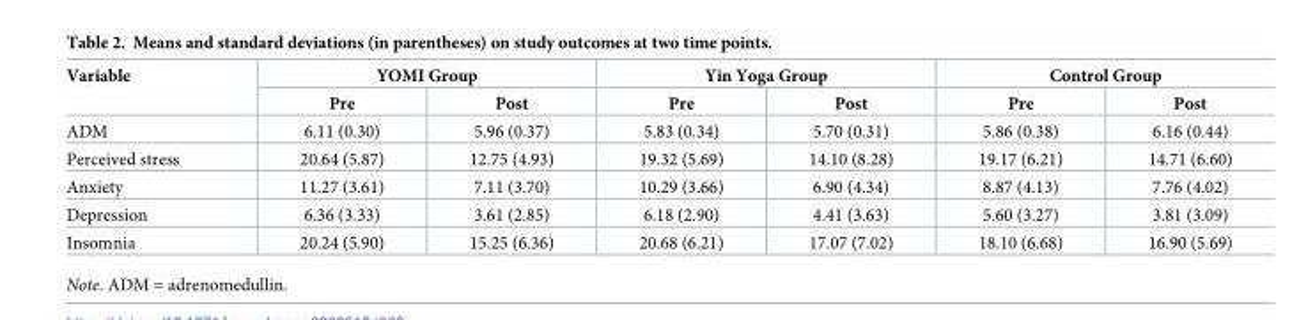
<table><thead><tr><td rowspan="2">Variable</td><td colspan="2">YOMI Group</td><td colspan="2">Yin Yoga Group</td><td colspan="2">Control Group</td></tr><tr><td>Pre</td><td>Post</td><td>Pre</td><td>Post</td><td>Pre</td><td>Post</td></tr></thead><tbody><tr><td>ADM</td><td>6.11 (0.30)</td><td>5.96 (0.37)</td><td>5.83 (0.34)</td><td>5.70 (0.31)</td><td>5.86 (0.38)</td><td>6.16 (0.44)</td></tr><tr><td>Perceived stress</td><td>20.64 (5.87)</td><td>12.75 (4.93)</td><td>19.32 (5.69)</td><td>14.10 (8.28)</td><td>19.17 (6.21)</td><td>14.71 (6.60)</td></tr><tr><td>Anxiety</td><td>11.27 (3.61)</td><td>7.11 (3.70)</td><td>10.29 (3.66)</td><td>6.90 (4.34)</td><td>8.87 (4.13)</td><td>7.76 (4.02)</td></tr><tr><td>Depression</td><td>6.36 (3.33)</td><td>3.61 (2.85)</td><td>6.18 (2.90)</td><td>4.41 (3.63)</td><td>5.60 (3.27)</td><td>3.81 (3.09)</td></tr><tr><td>Insomnia</td><td>20.24 (5.90)</td><td>15.25 (6.36)</td><td>20.68 (6.21)</td><td>17.07 (7.02)</td><td>18.10 (6.68)</td><td>16.90 (5.69)</td></tr></tbody></table>